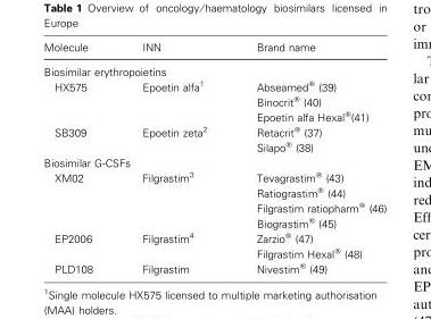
<table><thead><tr><td>Molecule</td><td>INN</td><td>Brand name</td></tr></thead><tbody><tr><td colspan="3">Biosimilar erythropoietins</td></tr><tr><td rowspan="3">HX575</td><td>Epoetin alfa<sup>1</sup></td><td>Abseamed® (39)</td></tr><tr><td></td><td>Binocrit® (40)</td></tr><tr><td></td><td>Epoetin alfa Hexal®(41)</td></tr><tr><td rowspan="2">SB309</td><td>Epoetin zeta<sup>2</sup></td><td>Retacrit® (37)</td></tr><tr><td></td><td>Silapo® (38)</td></tr><tr><td colspan="3">Biosimilar G-CSFs</td></tr><tr><td rowspan="4">XM02</td><td>Filgrastim<sup>3</sup></td><td>Tevagrastim® (43)</td></tr><tr><td></td><td>Ratiograstim® (44)</td></tr><tr><td></td><td>Filgrastim ratiopharm® (46)</td></tr><tr><td></td><td>Biograstim® (45)</td></tr><tr><td rowspan="2">EP2006</td><td>Filgrastim<sup>4</sup></td><td>Zarzio® (47)</td></tr><tr><td></td><td>Filgrastim Hexal® (48)</td></tr><tr><td>PLD108</td><td>Filgrastim</td><td>Nivestim® (49)</td></tr></tbody></table>